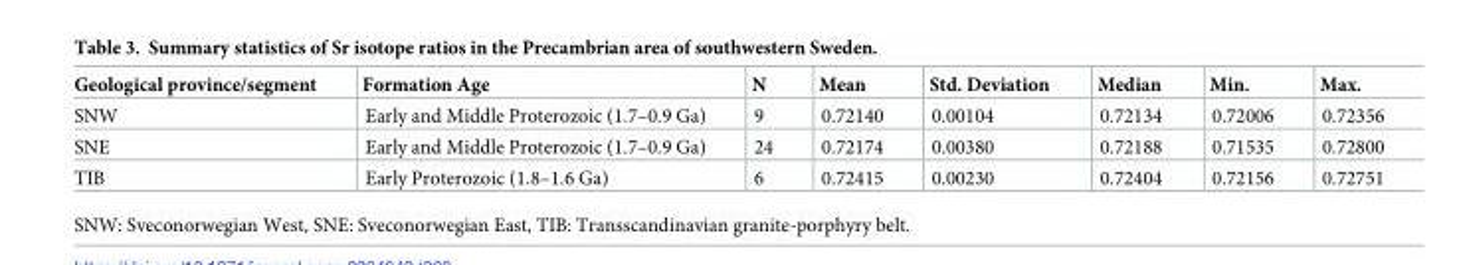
<table><thead><tr><td>Geological province/segment</td><td>Formation Age</td><td>N</td><td>Mean</td><td>Std. Deviation</td><td>Median</td><td>Min.</td><td>Max.</td></tr></thead><tbody><tr><td>SNW</td><td>Early and Middle Proterozoic (1.7–0.9 Ga)</td><td>9</td><td>0.72140</td><td>0.00104</td><td>0.72134</td><td>0.72006</td><td>0.72356</td></tr><tr><td>SNE</td><td>Early and Middle Proterozoic (1.7–0.9 Ga)</td><td>24</td><td>0.72174</td><td>0.00380</td><td>0.72188</td><td>0.71535</td><td>0.72800</td></tr><tr><td>TIB</td><td>Early Proterozoic (1.8–1.6 Ga)</td><td>6</td><td>0.72415</td><td>0.00230</td><td>0.72404</td><td>0.72156</td><td>0.72751</td></tr></tbody></table>